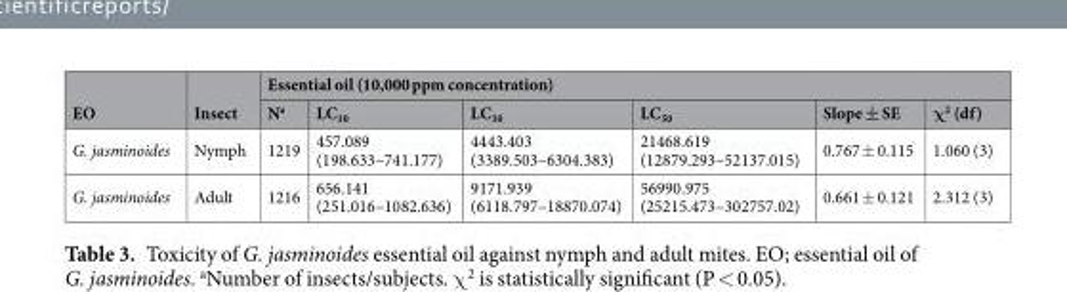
<table><thead><tr><td rowspan="2">EO</td><td rowspan="2">Insect</td><td colspan="6">Essential oil (10,000 ppm concentration)</td></tr><tr><td>N<sup>a</sup></td><td>LC<sub>10</sub></td><td>LC<sub>30</sub></td><td>LC<sub>50</sub></td><td>Slope ± SE</td><td>χ<sup>2</sup> (df)</td></tr></thead><tbody><tr><td>G. jasminoides</td><td>Nymph</td><td>1219</td><td>457.089 (198.633–741.177)</td><td>4443.403 (3389.503–6304.383)</td><td>21468.619 (12879.293–52137.015)</td><td>0.767 ± 0.115</td><td>1.060 (3)</td></tr><tr><td>G. jasminoides</td><td>Adult</td><td>1216</td><td>656.141 (251.016–1082.636)</td><td>9171.939 (6118.797–18870.074)</td><td>56990.975 (25215.473–302757.02)</td><td>0.661 ± 0.121</td><td>2.312 (3)</td></tr></tbody></table>